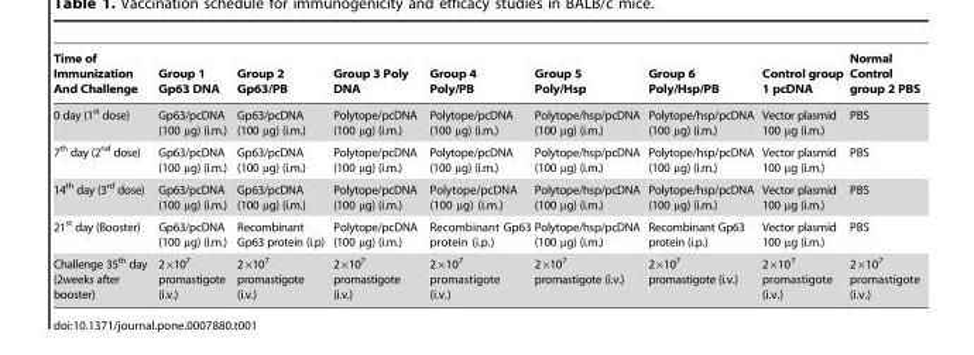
<table><thead><tr><td>Time of Immunization And Challenge</td><td>Group 1 Gp63 DNA</td><td>Group 2 Gp63/PB</td><td>Group 3 Poly DNA</td><td>Group 4 Poly/PB</td><td>Group 5 Poly/Hsp</td><td>Group 6 Poly/Hsp/PB</td><td>Control group 1 pcDNA</td><td>Normal Control group 2 PBS</td></tr></thead><tbody><tr><td>0 day (1<sup>st</sup> dose)</td><td>Gp63/pcDNA (100 µg) (i.m.)</td><td>Gp63/pcDNA (100 µg) (i.m.)</td><td>Polytope/pcDNA (100 µg) (i.m.)</td><td>Polytope/pcDNA (100 µg) (i.m.)</td><td>Polytope/hsp/pcDNA (100 µg) (i.m.)</td><td>Polytope/hsp/pcDNA (100 µg) (i.m.)</td><td>Vector plasmid 100 µg (i.m.)</td><td>PBS</td></tr><tr><td>7<sup>th</sup> day (2<sup>nd</sup> dose)</td><td>Gp63/pcDNA (100 µg) (i.m.)</td><td>Gp63/pcDNA (100 µg) (i.m.)</td><td>Polytope/pcDNA (100 µg) (i.m.)</td><td>Polytope/pcDNA (100 µg) (i.m.)</td><td>Polytope/hsp/pcDNA (100 µg) (i.m.)</td><td>Polytope/hsp/pcDNA (100 µg) (i.m.)</td><td>Vector plasmid 100 µg (i.m.)</td><td>PBS</td></tr><tr><td>14<sup>th</sup> day (3<sup>rd</sup> dose)</td><td>Gp63/pcDNA (100 µg) (i.m.)</td><td>Gp63/pcDNA (100 µg) (i.m.)</td><td>Polytope/pcDNA (100 µg) (i.m.)</td><td>Polytope/pcDNA (100 µg) (i.m.)</td><td>Polytope/hsp/pcDNA (100 µg) (i.m.)</td><td>Polytope/hsp/pcDNA (100 µg) (i.m.)</td><td>Vector plasmid 100 µg (i.m.)</td><td>PBS</td></tr><tr><td>21<sup>st</sup> day (Booster)</td><td>Gp63/pcDNA (100 µg) (i.m.)</td><td>Recombinant Gp63 protein (i.p)</td><td>Polytope/pcDNA (100 µg) (i.m.)</td><td>Recombinant Gp63 protein (i.p.)</td><td>Polytope/hsp/pcDNA (100 µg) (i.m.)</td><td>Recombinant Gp63 protein (i.p.)</td><td>Vector plasmid 100 µg (i.m.)</td><td>PBS</td></tr><tr><td>Challenge 35<sup>th</sup> day (2weeks after booster)</td><td>2×10<sup>7</sup> promastigote (i.v.)</td><td>2×10<sup>7</sup> promastigote (i.v.)</td><td>2×10<sup>7</sup> promastigote (i.v.)</td><td>2×10<sup>7</sup> promastigote (i.v.)</td><td>2×10<sup>7</sup> promastigote (i.v.)</td><td>2×10<sup>7</sup> promastigote (i.v.)</td><td>2×10<sup>7</sup> promastigote (i.v.)</td><td>2×10<sup>7</sup> promastigote (i.v.)</td></tr></tbody></table>